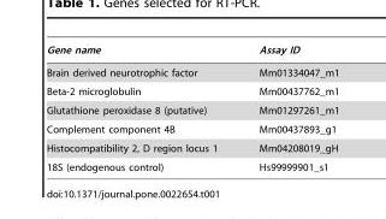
<table><thead><tr><td>Gene name</td><td>Assay ID</td></tr></thead><tbody><tr><td>Brain derived neurotrophic factor</td><td>Mm01334047_m1</td></tr><tr><td>Beta-2 microglobulin</td><td>Mm00437762_m1</td></tr><tr><td>Glutathione peroxidase 8 (putative)</td><td>Mm01297261_m1</td></tr><tr><td>Complement component 4B</td><td>Mm00437893_g1</td></tr><tr><td>Histocompatibility 2, D region locus 1</td><td>Mm04208019_gH</td></tr><tr><td>18S (endogenous control)</td><td>Hs99999901_s1</td></tr></tbody></table>